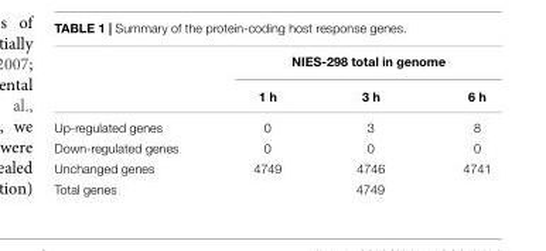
<table><thead><tr><td rowspan="2"></td><td colspan="3">NIES-298 total in genome</td></tr><tr><td>1 h</td><td>3 h</td><td>6 h</td></tr></thead><tbody><tr><td>Up-regulated genes</td><td>0</td><td>3</td><td>8</td></tr><tr><td>Down-regulated genes</td><td>0</td><td>0</td><td>0</td></tr><tr><td>Unchanged genes</td><td>4749</td><td>4746</td><td>4741</td></tr><tr><td>Total genes</td><td colspan="3">4749</td></tr></tbody></table>